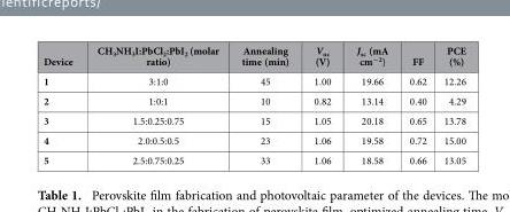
<table><thead><tr><td>Device</td><td>CH<sub>3</sub>NH<sub>3</sub>I:PbCl<sub>2</sub>:PbI<sub>2</sub> (molar ratio)</td><td>Annealing time (min)</td><td>V<sub>oc</sub> (V)</td><td>J<sub>sc</sub> (mA cm<sup>−2</sup>)</td><td>FF</td><td>PCE (%)</td></tr></thead><tbody><tr><td>1</td><td>3:1:0</td><td>45</td><td>1.00</td><td>19.66</td><td>0.62</td><td>12.26</td></tr><tr><td>2</td><td>1:0:1</td><td>10</td><td>0.82</td><td>13.14</td><td>0.40</td><td>4.29</td></tr><tr><td>3</td><td>1.5:0.25:0.75</td><td>15</td><td>1.05</td><td>20.18</td><td>0.65</td><td>13.78</td></tr><tr><td>4</td><td>2.0:0.5:0.5</td><td>23</td><td>1.06</td><td>19.58</td><td>0.72</td><td>15.00</td></tr><tr><td>5</td><td>2.5:0.75:0.25</td><td>33</td><td>1.06</td><td>18.58</td><td>0.66</td><td>13.05</td></tr></tbody></table>